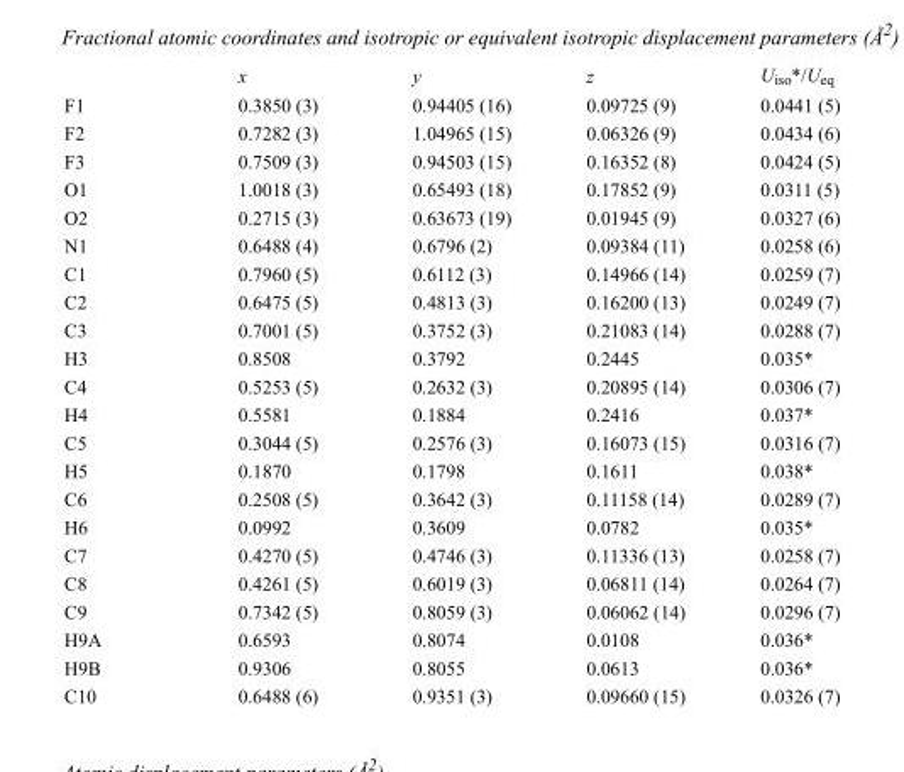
<table><thead><tr><td></td><td>x</td><td>y</td><td>z</td><td>U<sub>iso</sub>*/U<sub>eq</sub></td></tr></thead><tbody><tr><td>F1</td><td>0.3850 (3)</td><td>0.94405 (16)</td><td>0.09725 (9)</td><td>0.0441 (5)</td></tr><tr><td>F2</td><td>0.7282 (3)</td><td>1.04965 (15)</td><td>0.06326 (9)</td><td>0.0434 (6)</td></tr><tr><td>F3</td><td>0.7509 (3)</td><td>0.94503 (15)</td><td>0.16352 (8)</td><td>0.0424 (5)</td></tr><tr><td>O1</td><td>1.0018 (3)</td><td>0.65493 (18)</td><td>0.17852 (9)</td><td>0.0311 (5)</td></tr><tr><td>O2</td><td>0.2715 (3)</td><td>0.63673 (19)</td><td>0.01945 (9)</td><td>0.0327 (6)</td></tr><tr><td>N1</td><td>0.6488 (4)</td><td>0.6796 (2)</td><td>0.09384 (11)</td><td>0.0258 (6)</td></tr><tr><td>C1</td><td>0.7960 (5)</td><td>0.6112 (3)</td><td>0.14966 (14)</td><td>0.0259 (7)</td></tr><tr><td>C2</td><td>0.6475 (5)</td><td>0.4813 (3)</td><td>0.16200 (13)</td><td>0.0249 (7)</td></tr><tr><td>C3</td><td>0.7001 (5)</td><td>0.3752 (3)</td><td>0.21083 (14)</td><td>0.0288 (7)</td></tr><tr><td>H3</td><td>0.8508</td><td>0.3792</td><td>0.2445</td><td>0.035*</td></tr><tr><td>C4</td><td>0.5253 (5)</td><td>0.2632 (3)</td><td>0.20895 (14)</td><td>0.0306 (7)</td></tr><tr><td>H4</td><td>0.5581</td><td>0.1884</td><td>0.2416</td><td>0.037*</td></tr><tr><td>C5</td><td>0.3044 (5)</td><td>0.2576 (3)</td><td>0.16073 (15)</td><td>0.0316 (7)</td></tr><tr><td>H5</td><td>0.1870</td><td>0.1798</td><td>0.1611</td><td>0.038*</td></tr><tr><td>C6</td><td>0.2508 (5)</td><td>0.3642 (3)</td><td>0.11158 (14)</td><td>0.0289 (7)</td></tr><tr><td>H6</td><td>0.0992</td><td>0.3609</td><td>0.0782</td><td>0.035*</td></tr><tr><td>C7</td><td>0.4270 (5)</td><td>0.4746 (3)</td><td>0.11336 (13)</td><td>0.0258 (7)</td></tr><tr><td>C8</td><td>0.4261 (5)</td><td>0.6019 (3)</td><td>0.06811 (14)</td><td>0.0264 (7)</td></tr><tr><td>C9</td><td>0.7342 (5)</td><td>0.8059 (3)</td><td>0.06062 (14)</td><td>0.0296 (7)</td></tr><tr><td>H9A</td><td>0.6593</td><td>0.8074</td><td>0.0108</td><td>0.036*</td></tr><tr><td>H9B</td><td>0.9306</td><td>0.8055</td><td>0.0613</td><td>0.036*</td></tr><tr><td>C10</td><td>0.6488 (6)</td><td>0.9351 (3)</td><td>0.09660 (15)</td><td>0.0326 (7)</td></tr></tbody></table>